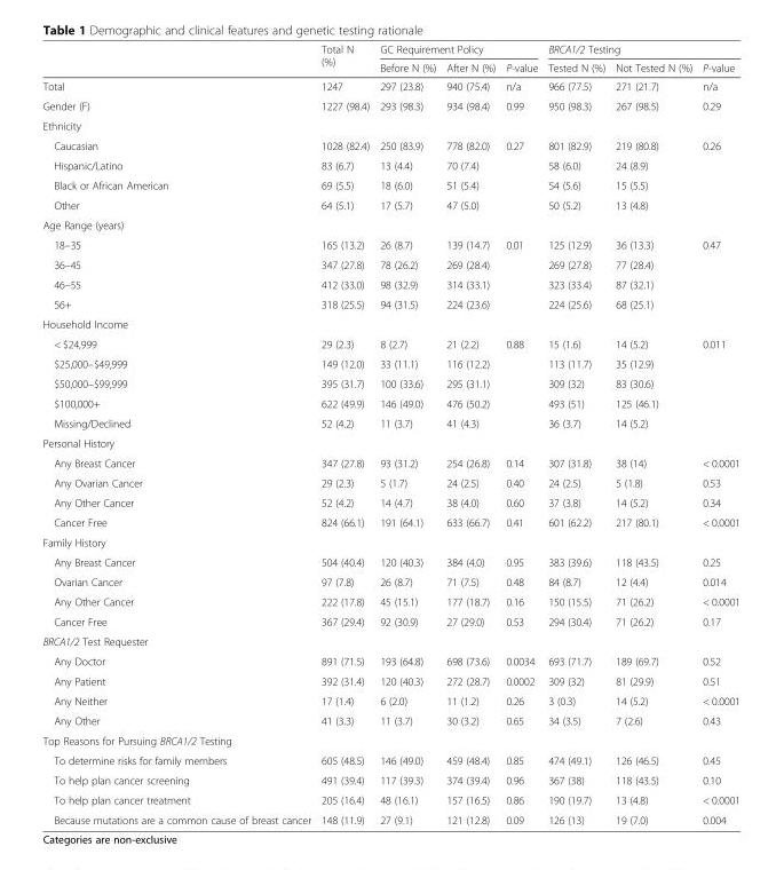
<table><thead><tr><td rowspan="2"></td><td rowspan="2">Total N (%)</td><td colspan="3">GC Requirement Policy</td><td colspan="3">BRCA1/2 Testing</td></tr><tr><td>Before N (%)</td><td>After N (%)</td><td>P-value</td><td>Tested N (%)</td><td>Not Tested N (%)</td><td>P-value</td></tr></thead><tbody><tr><td>Total</td><td>1247</td><td>297 (23.8)</td><td>940 (75.4)</td><td>n/a</td><td>966 (77.5)</td><td>271 (21.7)</td><td>n/a</td></tr><tr><td>Gender (F)</td><td>1227 (98.4)</td><td>293 (98.3)</td><td>934 (98.4)</td><td>0.99</td><td>950 (98.3)</td><td>267 (98.5)</td><td>0.29</td></tr><tr><td colspan="8">Ethnicity</td></tr><tr><td>Caucasian</td><td>1028 (82.4)</td><td>250 (83.9)</td><td>778 (82.0)</td><td rowspan="4">0.27</td><td>801 (82.9)</td><td>219 (80.8)</td><td rowspan="4">0.26</td></tr><tr><td>Hispanic/Latino</td><td>83 (6.7)</td><td>13 (4.4)</td><td>70 (7.4)</td><td>58 (6.0)</td><td>24 (8.9)</td></tr><tr><td>Black or African American</td><td>69 (5.5)</td><td>18 (6.0)</td><td>51 (5.4)</td><td>54 (5.6)</td><td>15 (5.5)</td></tr><tr><td>Other</td><td>64 (5.1)</td><td>17 (5.7)</td><td>47 (5.0)</td><td>50 (5.2)</td><td>13 (4.8)</td></tr><tr><td colspan="8">Age Range (years)</td></tr><tr><td>18–35</td><td>165 (13.2)</td><td>26 (8.7)</td><td>139 (14.7)</td><td rowspan="4">0.01</td><td>125 (12.9)</td><td>36 (13.3)</td><td rowspan="4">0.47</td></tr><tr><td>36–45</td><td>347 (27.8)</td><td>78 (26.2)</td><td>269 (28.4)</td><td>269 (27.8)</td><td>77 (28.4)</td></tr><tr><td>46–55</td><td>412 (33.0)</td><td>98 (32.9)</td><td>314 (33.1)</td><td>323 (33.4)</td><td>87 (32.1)</td></tr><tr><td>56+</td><td>318 (25.5)</td><td>94 (31.5)</td><td>224 (23.6)</td><td>224 (25.6)</td><td>68 (25.1)</td></tr><tr><td colspan="8">Household Income</td></tr><tr><td>&lt; $24,999</td><td>29 (2.3)</td><td>8 (2.7)</td><td>21 (2.2)</td><td rowspan="5">0.88</td><td>15 (1.6)</td><td>14 (5.2)</td><td rowspan="5">0.011</td></tr><tr><td>$25,000–$49,999</td><td>149 (12.0)</td><td>33 (11.1)</td><td>116 (12.2)</td><td>113 (11.7)</td><td>35 (12.9)</td></tr><tr><td>$50,000–$99,999</td><td>395 (31.7)</td><td>100 (33.6)</td><td>295 (31.1)</td><td>309 (32)</td><td>83 (30.6)</td></tr><tr><td>$100,000+</td><td>622 (49.9)</td><td>146 (49.0)</td><td>476 (50.2)</td><td>493 (51)</td><td>125 (46.1)</td></tr><tr><td>Missing/Declined</td><td>52 (4.2)</td><td>11 (3.7)</td><td>41 (4.3)</td><td>36 (3.7)</td><td>14 (5.2)</td></tr><tr><td colspan="8">Personal History</td></tr><tr><td>Any Breast Cancer</td><td>347 (27.8)</td><td>93 (31.2)</td><td>254 (26.8)</td><td>0.14</td><td>307 (31.8)</td><td>38 (14)</td><td>&lt; 0.0001</td></tr><tr><td>Any Ovarian Cancer</td><td>29 (2.3)</td><td>5 (1.7)</td><td>24 (2.5)</td><td>0.40</td><td>24 (2.5)</td><td>5 (1.8)</td><td>0.53</td></tr><tr><td>Any Other Cancer</td><td>52 (4.2)</td><td>14 (4.7)</td><td>38 (4.0)</td><td>0.60</td><td>37 (3.8)</td><td>14 (5.2)</td><td>0.34</td></tr><tr><td>Cancer Free</td><td>824 (66.1)</td><td>191 (64.1)</td><td>633 (66.7)</td><td>0.41</td><td>601 (62.2)</td><td>217 (80.1)</td><td>&lt; 0.0001</td></tr><tr><td colspan="8">Family History</td></tr><tr><td>Any Breast Cancer</td><td>504 (40.4)</td><td>120 (40.3)</td><td>384 (4.0)</td><td>0.95</td><td>383 (39.6)</td><td>118 (43.5)</td><td>0.25</td></tr><tr><td>Ovarian Cancer</td><td>97 (7.8)</td><td>26 (8.7)</td><td>71 (7.5)</td><td>0.48</td><td>84 (8.7)</td><td>12 (4.4)</td><td>0.014</td></tr><tr><td>Any Other Cancer</td><td>222 (17.8)</td><td>45 (15.1)</td><td>177 (18.7)</td><td>0.16</td><td>150 (15.5)</td><td>71 (26.2)</td><td>&lt; 0.0001</td></tr><tr><td>Cancer Free</td><td>367 (29.4)</td><td>92 (30.9)</td><td>27 (29.0)</td><td>0.53</td><td>294 (30.4)</td><td>71 (26.2)</td><td>0.17</td></tr><tr><td colspan="8">BRCA1/2 Test Requester</td></tr><tr><td>Any Doctor</td><td>891 (71.5)</td><td>193 (64.8)</td><td>698 (73.6)</td><td>0.0034</td><td>693 (71.7)</td><td>189 (69.7)</td><td>0.52</td></tr><tr><td>Any Patient</td><td>392 (31.4)</td><td>120 (40.3)</td><td>272 (28.7)</td><td>0.0002</td><td>309 (32)</td><td>81 (29.9)</td><td>0.51</td></tr><tr><td>Any Neither</td><td>17 (1.4)</td><td>6 (2.0)</td><td>11 (1.2)</td><td>0.26</td><td>3 (0.3)</td><td>14 (5.2)</td><td>&lt; 0.0001</td></tr><tr><td>Any Other</td><td>41 (3.3)</td><td>11 (3.7)</td><td>30 (3.2)</td><td>0.65</td><td>34 (3.5)</td><td>7 (2.6)</td><td>0.43</td></tr><tr><td colspan="8">Top Reasons for Pursuing BRCA1/2 Testing</td></tr><tr><td>To determine risks for family members</td><td>605 (48.5)</td><td>146 (49.0)</td><td>459 (48.4)</td><td>0.85</td><td>474 (49.1)</td><td>126 (46.5)</td><td>0.45</td></tr><tr><td>To help plan cancer screening</td><td>491 (39.4)</td><td>117 (39.3)</td><td>374 (39.4)</td><td>0.96</td><td>367 (38)</td><td>118 (43.5)</td><td>0.10</td></tr><tr><td>To help plan cancer treatment</td><td>205 (16.4)</td><td>48 (16.1)</td><td>157 (16.5)</td><td>0.86</td><td>190 (19.7)</td><td>13 (4.8)</td><td>&lt; 0.0001</td></tr><tr><td>Because mutations are a common cause of breast cancer</td><td>148 (11.9)</td><td>27 (9.1)</td><td>121 (12.8)</td><td>0.09</td><td>126 (13)</td><td>19 (7.0)</td><td>0.004</td></tr></tbody></table>